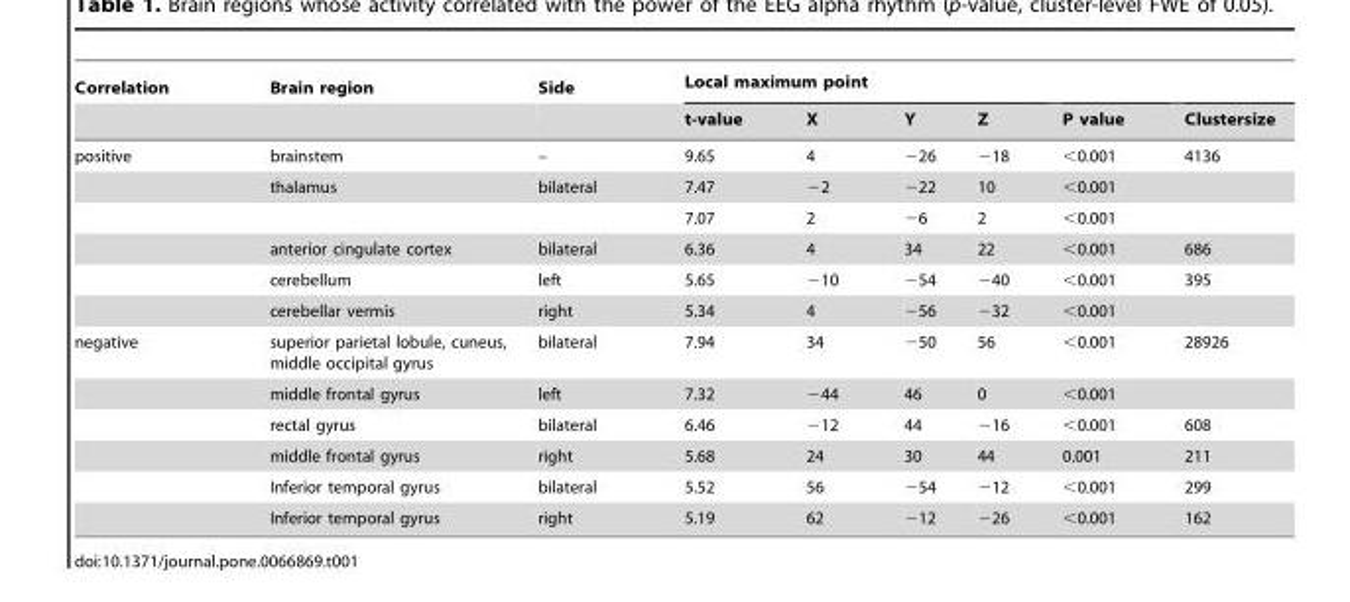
<table><thead><tr><td rowspan="2">Correlation</td><td rowspan="2">Brain region</td><td rowspan="2">Side</td><td colspan="4">Local maximum point</td><td rowspan="2">P value</td><td rowspan="2">Clustersize</td></tr><tr><td>t-value</td><td>X</td><td>Y</td><td>Z</td></tr></thead><tbody><tr><td rowspan="6">positive</td><td>brainstem</td><td>–</td><td>9.65</td><td>4</td><td>−26</td><td>−18</td><td>&lt;0.001</td><td>4136</td></tr><tr><td>thalamus</td><td>bilateral</td><td>7.47</td><td>−2</td><td>−22</td><td>10</td><td>&lt;0.001</td><td></td></tr><tr><td></td><td></td><td>7.07</td><td>2</td><td>−6</td><td>2</td><td>&lt;0.001</td><td></td></tr><tr><td>anterior cingulate cortex</td><td>bilateral</td><td>6.36</td><td>4</td><td>34</td><td>22</td><td>&lt;0.001</td><td>686</td></tr><tr><td>cerebellum</td><td>left</td><td>5.65</td><td>−10</td><td>−54</td><td>−40</td><td>&lt;0.001</td><td>395</td></tr><tr><td>cerebellar vermis</td><td>right</td><td>5.34</td><td>4</td><td>−56</td><td>−32</td><td>&lt;0.001</td><td></td></tr><tr><td rowspan="6">negative</td><td>superior parietal lobule, cuneus, middle occipital gyrus</td><td>bilateral</td><td>7.94</td><td>34</td><td>−50</td><td>56</td><td>&lt;0.001</td><td>28926</td></tr><tr><td>middle frontal gyrus</td><td>left</td><td>7.32</td><td>−44</td><td>46</td><td>0</td><td>&lt;0.001</td><td></td></tr><tr><td>rectal gyrus</td><td>bilateral</td><td>6.46</td><td>−12</td><td>44</td><td>−16</td><td>&lt;0.001</td><td>608</td></tr><tr><td>middle frontal gyrus</td><td>right</td><td>5.68</td><td>24</td><td>30</td><td>44</td><td>0.001</td><td>211</td></tr><tr><td>Inferior temporal gyrus</td><td>bilateral</td><td>5.52</td><td>56</td><td>−54</td><td>−12</td><td>&lt;0.001</td><td>299</td></tr><tr><td>Inferior temporal gyrus</td><td>right</td><td>5.19</td><td>62</td><td>−12</td><td>−26</td><td>&lt;0.001</td><td>162</td></tr></tbody></table>